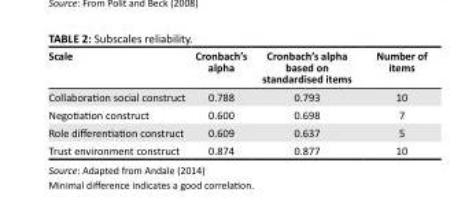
<table><thead><tr><td>Scale</td><td>Cronbach’s alpha</td><td>Cronbach’s alpha based on standardised items</td><td>Number of items</td></tr></thead><tbody><tr><td>Collaboration social construct</td><td>0.788</td><td>0.793</td><td>10</td></tr><tr><td>Negotiation construct</td><td>0.600</td><td>0.698</td><td>7</td></tr><tr><td>Role differentiation construct</td><td>0.609</td><td>0.637</td><td>5</td></tr><tr><td>Trust environment construct</td><td>0.874</td><td>0.877</td><td>10</td></tr></tbody></table>